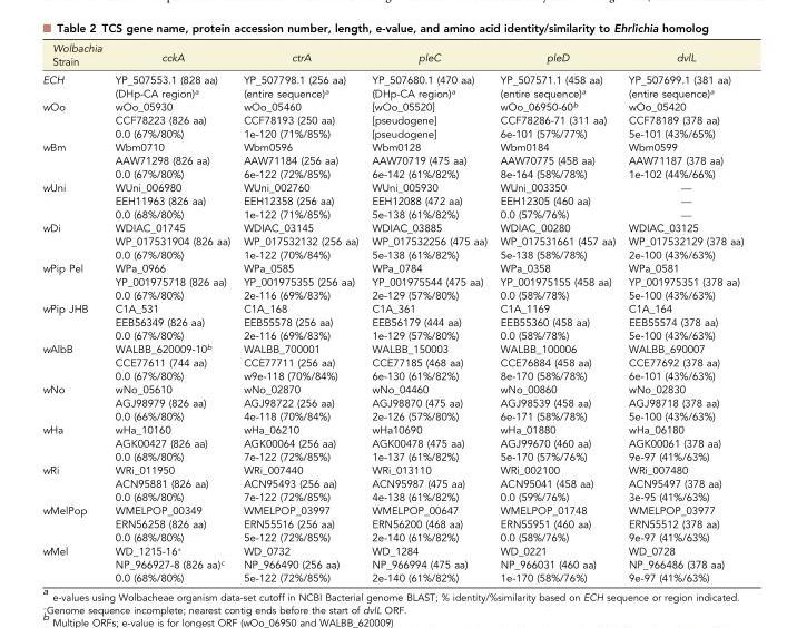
<table><thead><tr><td>Wolbachia Strain</td><td>cckA</td><td>ctrA</td><td>pleC</td><td>pleD</td><td>dvlL</td></tr></thead><tbody><tr><td rowspan="2">ECH</td><td>YP_507553.1 (828 aa)</td><td>YP_507798.1 (256 aa)</td><td>YP_507680.1 (470 aa)</td><td>YP_507571.1 (458 aa)</td><td>YP_507699.1 (381 aa)</td></tr><tr><td>(DHp-CA region)<sup>a</sup></td><td>(entire sequence)<sup>a</sup></td><td>(DHp-CA region)<sup>a</sup></td><td>(entire sequence)<sup>a</sup></td><td>(entire sequence)<sup>a</sup></td></tr><tr><td rowspan="3">wOo</td><td>wOo_05930</td><td>wOo_05460</td><td>[wOo_05520]</td><td>wOo_06950-60<sup>b</sup></td><td>wOo_05420</td></tr><tr><td>CCF78223 (826 aa)</td><td>CCF78193 (250 aa)</td><td>[pseudogene]</td><td>CCF78286-71 (311 aa)</td><td>CCF78189 (378 aa)</td></tr><tr><td>0.0 (67%/80%)</td><td>1e-120 (71%/85%)</td><td>[pseudogene]</td><td>6e-101 (57%/77%)</td><td>5e-101 (43%/65%)</td></tr><tr><td rowspan="3">wBm</td><td>Wbm0710</td><td>Wbm0596</td><td>Wbm0128</td><td>Wbm0184</td><td>Wbm0599</td></tr><tr><td>AAW71298 (826 aa)</td><td>AAW71184 (256 aa)</td><td>AAW70719 (475 aa)</td><td>AAW70775 (458 aa)</td><td>AAW71187 (378 aa)</td></tr><tr><td>0.0 (67%/80%)</td><td>6e-122 (72%/85%)</td><td>6e-142 (61%/82%)</td><td>8e-164 (58%/78%)</td><td>1e-102 (44%/66%)</td></tr><tr><td rowspan="3">wUni</td><td>WUni_006980</td><td>WUni_002760</td><td>WUni_005930</td><td>WUni_003350</td><td>—</td></tr><tr><td>EEH11963 (826 aa)</td><td>EEH12358 (256 aa)</td><td>EEH12088 (472 aa)</td><td>EEH12305 (460 aa)</td><td>—</td></tr><tr><td>0.0 (68%/80%)</td><td>1e-122 (71%/85%)</td><td>5e-138 (61%/82%)</td><td>0.0 (57%/76%)</td><td>—</td></tr><tr><td rowspan="3">wDi</td><td>WDIAC_01745</td><td>WDIAC_03145</td><td>WDIAC_03885</td><td>WDIAC_00280</td><td>WDIAC_03125</td></tr><tr><td>WP_017531904 (826 aa)</td><td>WP_017532132 (256 aa)</td><td>WP_017532256 (475 aa)</td><td>WP_017531661 (457 aa)</td><td>WP_017532129 (378 aa)</td></tr><tr><td>0.0 (67%/80%)</td><td>1e-122 (70%/84%)</td><td>5e-138 (61%/82%)</td><td>5e-138 (58%/78%)</td><td>2e-100 (43%/63%)</td></tr><tr><td rowspan="3">wPip Pel</td><td>WPa_0966</td><td>WPa_0585</td><td>WPa_0784</td><td>WPa_0358</td><td>WPa_0581</td></tr><tr><td>YP_001975718 (826 aa)</td><td>YP_001975355 (256 aa)</td><td>YP_001975544 (475 aa)</td><td>YP_001975155 (458 aa)</td><td>YP_001975351 (378 aa)</td></tr><tr><td>0.0 (67%/80%)</td><td>2e-116 (69%/83%)</td><td>2e-129 (57%/80%)</td><td>0.0 (58%/78%)</td><td>5e-100 (43%/63%)</td></tr><tr><td rowspan="3">wPip JHB</td><td>C1A_531</td><td>C1A_168</td><td>C1A_361</td><td>C1A_1169</td><td>C1A_164</td></tr><tr><td>EEB56349 (826 aa)</td><td>EEB55578 (256 aa)</td><td>EEB56179 (444 aa)</td><td>EEB55360 (458 aa)</td><td>EEB55574 (378 aa)</td></tr><tr><td>0.0 (67%/80%)</td><td>2e-116 (69%/83%)</td><td>1e-129 (57%/80%)</td><td>0.0 (58%/78%)</td><td>5e-100 (43%/63%)</td></tr><tr><td rowspan="3">wAlbB</td><td>WALBB_620009-10<sup>b</sup></td><td>WALBB_700001</td><td>WALBB_150003</td><td>WALBB_100006</td><td>WALBB_690007</td></tr><tr><td>CCE77611 (744 aa)</td><td>CCE77711 (256 aa)</td><td>CCE77185 (468 aa)</td><td>CCE76884 (458 aa)</td><td>CCE77692 (378 aa)</td></tr><tr><td>0.0 (67%/80%)</td><td>w9e-118 (70%/84%)</td><td>6e-130 (61%/82%)</td><td>8e-170 (58%/78%)</td><td>6e-101 (43%/63%)</td></tr><tr><td rowspan="3">wNo</td><td>wNo_05610</td><td>wNo_02870</td><td>wNo_04460</td><td>wNo_00860</td><td>wNo_02830</td></tr><tr><td>AGJ98979 (826 aa)</td><td>AGJ98722 (256 aa)</td><td>AGJ98870 (475 aa)</td><td>AGJ98539 (458 aa)</td><td>AGJ98718 (378 aa)</td></tr><tr><td>0.0 (66%/80%)</td><td>4e-118 (70%/84%)</td><td>2e-126 (57%/80%)</td><td>6e-171 (58%/78%)</td><td>5e-100 (43%/63%)</td></tr><tr><td rowspan="3">wHa</td><td>wHa_10160</td><td>wHa_06210</td><td>wHa10690</td><td>wHa_01880</td><td>wHa_06180</td></tr><tr><td>AGK00427 (826 aa)</td><td>AGK00064 (256 aa)</td><td>AGK00478 (475 aa)</td><td>AGJ99670 (460 aa)</td><td>AGK00061 (378 aa)</td></tr><tr><td>0.0 (68%/80%)</td><td>7e-122 (72%/85%)</td><td>1e-137 (61%/82%)</td><td>5e-170 (57%/76%)</td><td>9e-97 (41%/63%)</td></tr><tr><td rowspan="3">wRi</td><td>WRi_011950</td><td>WRi_007440</td><td>WRi_013110</td><td>WRi_002100</td><td>WRi_007480</td></tr><tr><td>ACN95881 (826 aa)</td><td>ACN95493 (256 aa)</td><td>ACN95987 (475 aa)</td><td>ACN95041 (458 aa)</td><td>ACN95497 (378 aa)</td></tr><tr><td>0.0 (68%/80%)</td><td>7e-122 (72%/85%)</td><td>4e-138 (61%/82%)</td><td>0.0 (59%/76%)</td><td>3e-95 (41%/63%)</td></tr><tr><td rowspan="3">wMelPop</td><td>WMELPOP_00349</td><td>WMELPOP_03997</td><td>WMELPOP_00647</td><td>WMELPOP_01748</td><td>WMELPOP_03977</td></tr><tr><td>ERN56258 (826 aa)</td><td>ERN55516 (256 aa)</td><td>ERN56200 (468 aa)</td><td>ERN55951 (460 aa)</td><td>ERN55512 (378 aa)</td></tr><tr><td>0.0 (68%/80%)</td><td>5e-122 (72%/85%)</td><td>2e-140 (61%/82%)</td><td>0.0 (58%/76%)</td><td>9e-97 (41%/63%)</td></tr><tr><td rowspan="3">wMel</td><td>WD_1215-16*</td><td>WD_0732</td><td>WD_1284</td><td>WD_0221</td><td>WD_0728</td></tr><tr><td>NP_966927-8 (826 aa)<sup>c</sup></td><td>NP_966490 (256 aa)</td><td>NP_966994 (475 aa)</td><td>NP_966031 (460 aa)</td><td>NP_966486 (378 aa)</td></tr><tr><td>0.0 (68%/80%)</td><td>5e-122 (72%/85%)</td><td>2e-140 (61%/82%)</td><td>1e-170 (58%/76%)</td><td>9e-97 (41%/63%)</td></tr></tbody></table>